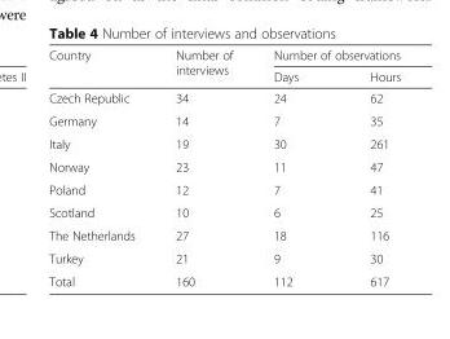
<table><thead><tr><td rowspan="2">Country</td><td rowspan="2">Number of interviews</td><td colspan="2">Number of observations</td></tr><tr><td>Days</td><td>Hours</td></tr></thead><tbody><tr><td>Czech Republic</td><td>34</td><td>24</td><td>62</td></tr><tr><td>Germany</td><td>14</td><td>7</td><td>35</td></tr><tr><td>Italy</td><td>19</td><td>30</td><td>261</td></tr><tr><td>Norway</td><td>23</td><td>11</td><td>47</td></tr><tr><td>Poland</td><td>12</td><td>7</td><td>41</td></tr><tr><td>Scotland</td><td>10</td><td>6</td><td>25</td></tr><tr><td>The Netherlands</td><td>27</td><td>18</td><td>116</td></tr><tr><td>Turkey</td><td>21</td><td>9</td><td>30</td></tr><tr><td>Total</td><td>160</td><td>112</td><td>617</td></tr></tbody></table>